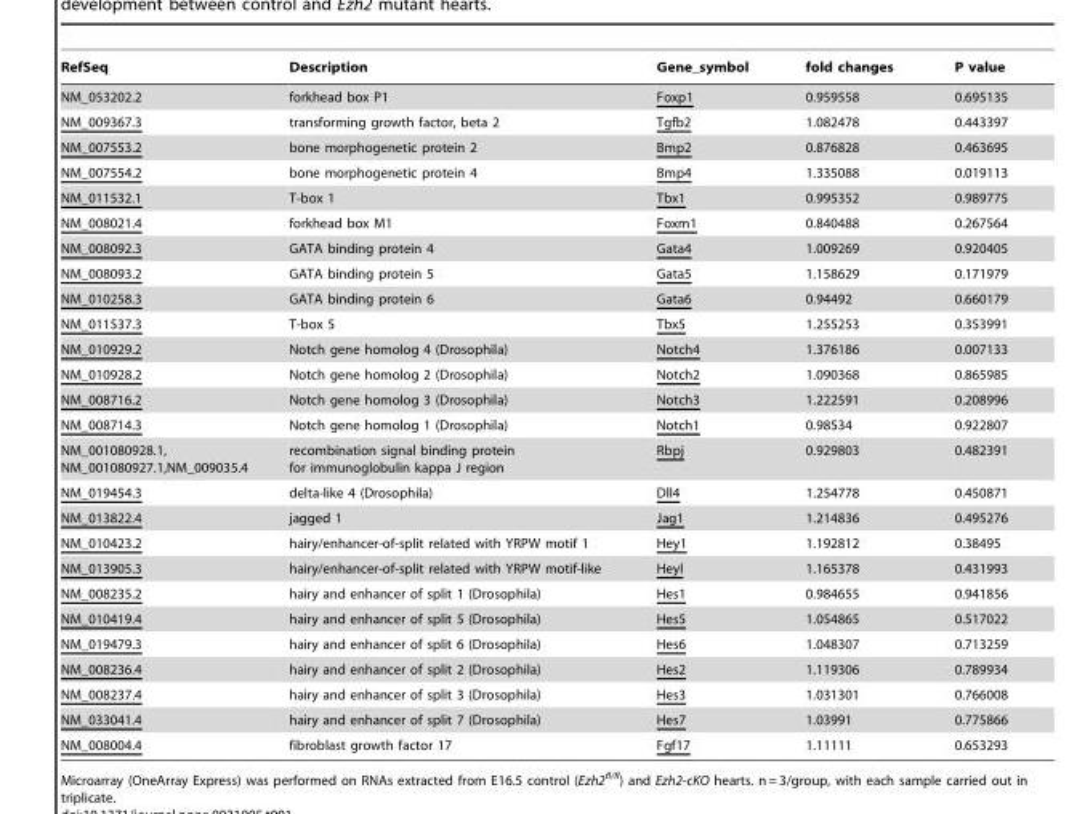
<table><thead><tr><td>RefSeq</td><td>Description</td><td>Gene_symbol</td><td>fold changes</td><td>P value</td></tr></thead><tbody><tr><td>NM_053202.2</td><td>forkhead box P1</td><td>Foxp1</td><td>0.959558</td><td>0.695135</td></tr><tr><td>NM_009367.3</td><td>transforming growth factor, beta 2</td><td>Tgfb2</td><td>1.082478</td><td>0.443397</td></tr><tr><td>NM_007553.2</td><td>bone morphogenetic protein 2</td><td>Bmp2</td><td>0.876828</td><td>0.463695</td></tr><tr><td>NM_007554.2</td><td>bone morphogenetic protein 4</td><td>Bmp4</td><td>1.335088</td><td>0.019113</td></tr><tr><td>NM_011532.1</td><td>T-box 1</td><td>Tbx1</td><td>0.995352</td><td>0.989775</td></tr><tr><td>NM_008021.4</td><td>forkhead box M1</td><td>Foxm1</td><td>0.840488</td><td>0.267564</td></tr><tr><td>NM_008092.3</td><td>GATA binding protein 4</td><td>Gata4</td><td>1.009269</td><td>0.920405</td></tr><tr><td>NM_008093.2</td><td>GATA binding protein 5</td><td>Gata5</td><td>1.158629</td><td>0.171979</td></tr><tr><td>NM_010258.3</td><td>GATA binding protein 6</td><td>Gata6</td><td>0.94492</td><td>0.660179</td></tr><tr><td>NM_011537.3</td><td>T-box 5</td><td>Tbx5</td><td>1.255253</td><td>0.353991</td></tr><tr><td>NM_010929.2</td><td>Notch gene homolog 4 (Drosophila)</td><td>Notch4</td><td>1.376186</td><td>0.007133</td></tr><tr><td>NM_010928.2</td><td>Notch gene homolog 2 (Drosophila)</td><td>Notch2</td><td>1.090368</td><td>0.865985</td></tr><tr><td>NM_008716.2</td><td>Notch gene homolog 3 (Drosophila)</td><td>Notch3</td><td>1.222591</td><td>0.208996</td></tr><tr><td>NM_008714.3</td><td>Notch gene homolog 1 (Drosophila)</td><td>Notch1</td><td>0.98534</td><td>0.922807</td></tr><tr><td>NM_001080928.1, NM_001080927.1,NM_009035.4</td><td>recombination signal binding protein for immunoglobulin kappa J region</td><td>Rbpj</td><td>0.929803</td><td>0.482391</td></tr><tr><td>NM_019454.3</td><td>delta-like 4 (Drosophila)</td><td>Dll4</td><td>1.254778</td><td>0.450871</td></tr><tr><td>NM_013822.4</td><td>jagged 1</td><td>Jag1</td><td>1.214836</td><td>0.495276</td></tr><tr><td>NM_010423.2</td><td>hairy/enhancer-of-split related with YRPW motif 1</td><td>Hey1</td><td>1.192812</td><td>0.38495</td></tr><tr><td>NM_013905.3</td><td>hairy/enhancer-of-split related with YRPW motif-like</td><td>Heyl</td><td>1.165378</td><td>0.431993</td></tr><tr><td>NM_008235.2</td><td>hairy and enhancer of split 1 (Drosophila)</td><td>Hes1</td><td>0.984655</td><td>0.941856</td></tr><tr><td>NM_010419.4</td><td>hairy and enhancer of split 5 (Drosophila)</td><td>Hes5</td><td>1.054865</td><td>0.517022</td></tr><tr><td>NM_019479.3</td><td>hairy and enhancer of split 6 (Drosophila)</td><td>Hes6</td><td>1.048307</td><td>0.713259</td></tr><tr><td>NM_008236.4</td><td>hairy and enhancer of split 2 (Drosophila)</td><td>Hes2</td><td>1.119306</td><td>0.789934</td></tr><tr><td>NM_008237.4</td><td>hairy and enhancer of split 3 (Drosophila)</td><td>Hes3</td><td>1.031301</td><td>0.766008</td></tr><tr><td>NM_033041.4</td><td>hairy and enhancer of split 7 (Drosophila)</td><td>Hes7</td><td>1.03991</td><td>0.775866</td></tr><tr><td>NM_008004.4</td><td>fibroblast growth factor 17</td><td>Fgf17</td><td>1.11111</td><td>0.653293</td></tr></tbody></table>